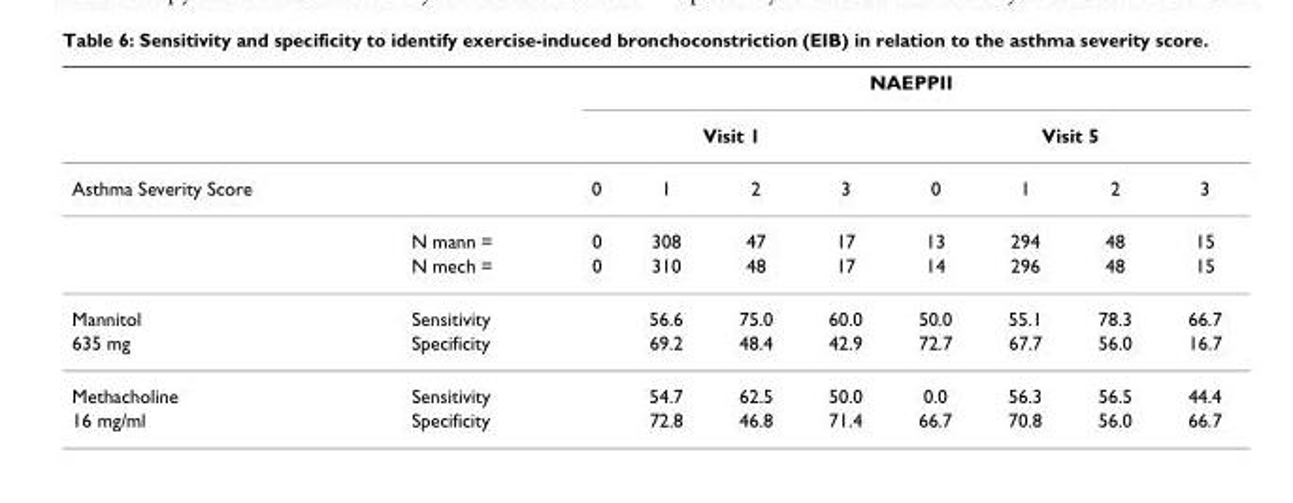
<table><thead><tr><td rowspan="3">Asthma Severity Score</td><td rowspan="3"></td><td colspan="8">NAEPPII</td></tr><tr><td colspan="4">Visit 1</td><td colspan="4">Visit 5</td></tr><tr><td>0</td><td>1</td><td>2</td><td>3</td><td>0</td><td>1</td><td>2</td><td>3</td></tr></thead><tbody><tr><td></td><td>N mann =</td><td>0</td><td>308</td><td>47</td><td>17</td><td>13</td><td>294</td><td>48</td><td>15</td></tr><tr><td></td><td>N mech =</td><td>0</td><td>310</td><td>48</td><td>17</td><td>14</td><td>296</td><td>48</td><td>15</td></tr><tr><td>Mannitol</td><td>Sensitivity</td><td></td><td>56.6</td><td>75.0</td><td>60.0</td><td>50.0</td><td>55.1</td><td>78.3</td><td>66.7</td></tr><tr><td>635 mg</td><td>Specificity</td><td></td><td>69.2</td><td>48.4</td><td>42.9</td><td>72.7</td><td>67.7</td><td>56.0</td><td>16.7</td></tr><tr><td>Methacholine</td><td>Sensitivity</td><td></td><td>54.7</td><td>62.5</td><td>50.0</td><td>0.0</td><td>56.3</td><td>56.5</td><td>44.4</td></tr><tr><td>16 mg/ml</td><td>Specificity</td><td></td><td>72.8</td><td>46.8</td><td>71.4</td><td>66.7</td><td>70.8</td><td>56.0</td><td>66.7</td></tr></tbody></table>